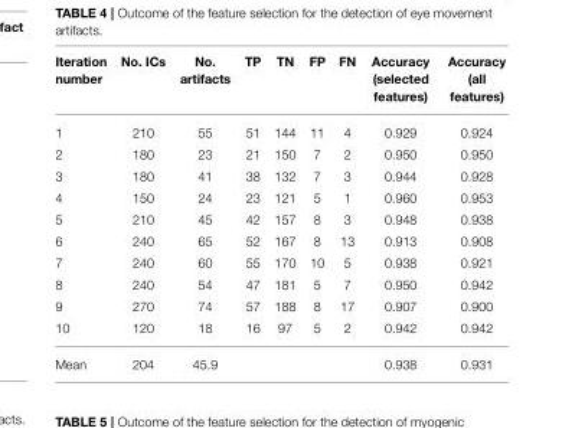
<table><thead><tr><td>Iteration number</td><td>No. ICs</td><td>No. artifacts</td><td>TP</td><td>TN</td><td>FP</td><td>FN</td><td>Accuracy (selected features)</td><td>Accuracy (all features)</td></tr></thead><tbody><tr><td>1</td><td>210</td><td>55</td><td>51</td><td>144</td><td>11</td><td>4</td><td>0.929</td><td>0.924</td></tr><tr><td>2</td><td>180</td><td>23</td><td>21</td><td>150</td><td>7</td><td>2</td><td>0.950</td><td>0.950</td></tr><tr><td>3</td><td>180</td><td>41</td><td>38</td><td>132</td><td>7</td><td>3</td><td>0.944</td><td>0.928</td></tr><tr><td>4</td><td>150</td><td>24</td><td>23</td><td>121</td><td>5</td><td>1</td><td>0.960</td><td>0.953</td></tr><tr><td>5</td><td>210</td><td>45</td><td>42</td><td>157</td><td>8</td><td>3</td><td>0.948</td><td>0.938</td></tr><tr><td>6</td><td>240</td><td>65</td><td>52</td><td>167</td><td>8</td><td>13</td><td>0.913</td><td>0.908</td></tr><tr><td>7</td><td>240</td><td>60</td><td>55</td><td>170</td><td>10</td><td>5</td><td>0.938</td><td>0.921</td></tr><tr><td>8</td><td>240</td><td>54</td><td>47</td><td>181</td><td>5</td><td>7</td><td>0.950</td><td>0.942</td></tr><tr><td>9</td><td>270</td><td>74</td><td>57</td><td>188</td><td>8</td><td>17</td><td>0.907</td><td>0.900</td></tr><tr><td>10</td><td>120</td><td>18</td><td>16</td><td>97</td><td>5</td><td>2</td><td>0.942</td><td>0.942</td></tr><tr><td>Mean</td><td>204</td><td>45.9</td><td></td><td></td><td></td><td></td><td>0.938</td><td>0.931</td></tr></tbody></table>